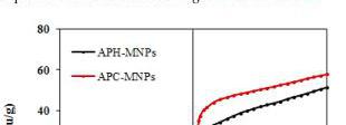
<table><thead><tr><td>Sample</td><td>Ms (emu/g)</td><td>Mr (emu/g)</td><td>Hc (Oe)</td></tr></thead><tbody><tr><td>APH-MNPs</td><td>51.42</td><td>0.153</td><td>6.4</td></tr><tr><td>APC-MNPs</td><td>57.83</td><td>0.098</td><td>5.1</td></tr></tbody></table>